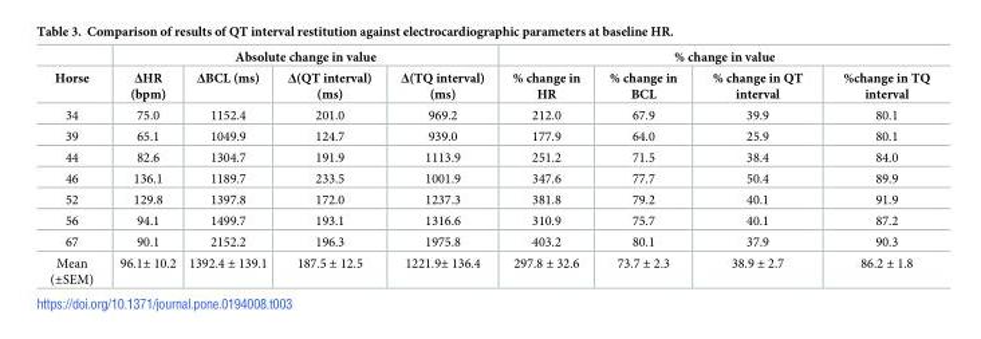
<table><thead><tr><td rowspan="2">Horse</td><td colspan="4">Absolute change in value</td><td colspan="4">% change in value</td></tr><tr><td>ΔHR (bpm)</td><td>ΔBCL (ms)</td><td>Δ(QT interval) (ms)</td><td>Δ(TQ interval) (ms)</td><td>% change in HR</td><td>% change in BCL</td><td>% change in QT interval</td><td>%change in TQ interval</td></tr></thead><tbody><tr><td>34</td><td>75.0</td><td>1152.4</td><td>201.0</td><td>969.2</td><td>212.0</td><td>67.9</td><td>39.9</td><td>80.1</td></tr><tr><td>39</td><td>65.1</td><td>1049.9</td><td>124.7</td><td>939.0</td><td>177.9</td><td>64.0</td><td>25.9</td><td>80.1</td></tr><tr><td>44</td><td>82.6</td><td>1304.7</td><td>191.9</td><td>1113.9</td><td>251.2</td><td>71.5</td><td>38.4</td><td>84.0</td></tr><tr><td>46</td><td>136.1</td><td>1189.7</td><td>233.5</td><td>1001.9</td><td>347.6</td><td>77.7</td><td>50.4</td><td>89.9</td></tr><tr><td>52</td><td>129.8</td><td>1397.8</td><td>172.0</td><td>1237.3</td><td>381.8</td><td>79.2</td><td>40.1</td><td>91.9</td></tr><tr><td>56</td><td>94.1</td><td>1499.7</td><td>193.1</td><td>1316.6</td><td>310.9</td><td>75.7</td><td>40.1</td><td>87.2</td></tr><tr><td>67</td><td>90.1</td><td>2152.2</td><td>196.3</td><td>1975.8</td><td>403.2</td><td>80.1</td><td>37.9</td><td>90.3</td></tr><tr><td>Mean (±SEM)</td><td>96.1± 10.2</td><td>1392.4 ± 139.1</td><td>187.5 ± 12.5</td><td>1221.9± 136.4</td><td>297.8 ± 32.6</td><td>73.7 ± 2.3</td><td>38.9 ± 2.7</td><td>86.2 ± 1.8</td></tr></tbody></table>